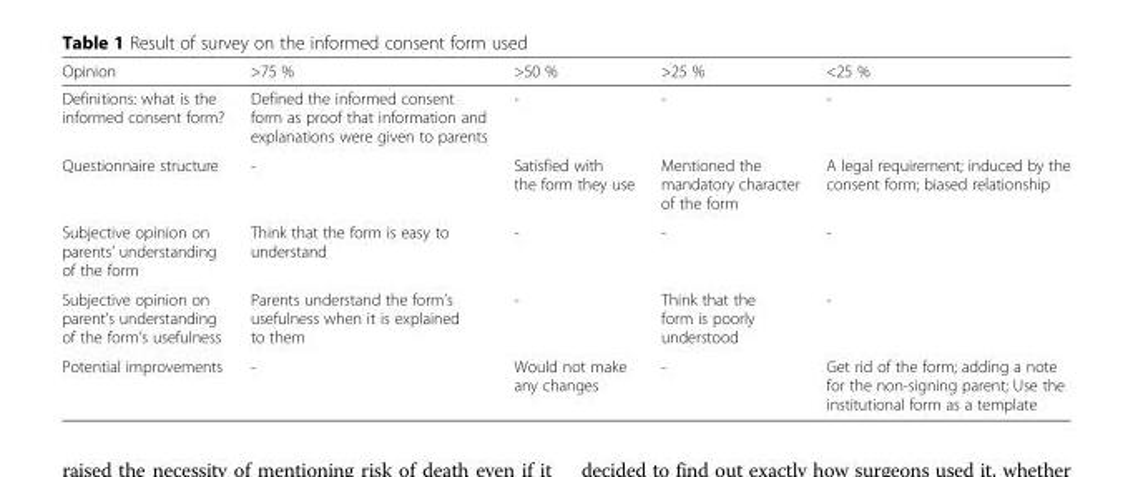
<table><thead><tr><td>Opinion</td><td>&gt;75 %</td><td>&gt;50 %</td><td>&gt;25 %</td><td>&lt;25 %</td></tr></thead><tbody><tr><td>Definitions: what is the informed consent form?</td><td>Defined the informed consent form as proof that information and explanations were given to parents</td><td>-</td><td>-</td><td>-</td></tr><tr><td>Questionnaire structure</td><td>-</td><td>Satisfied with the form they use</td><td>Mentioned the mandatory character of the form</td><td>A legal requirement; induced by the consent form; biased relationship</td></tr><tr><td>Subjective opinion on parents’ understanding of the form</td><td>Think that the form is easy to understand</td><td>-</td><td>-</td><td>-</td></tr><tr><td>Subjective opinion on parent’s understanding of the form’s usefulness</td><td>Parents understand the form’s usefulness when it is explained to them</td><td>-</td><td>Think that the form is poorly understood</td><td>-</td></tr><tr><td>Potential improvements</td><td>-</td><td>Would not make any changes</td><td>-</td><td>Get rid of the form; adding a note for the non-signing parent; Use the institutional form as a template</td></tr></tbody></table>